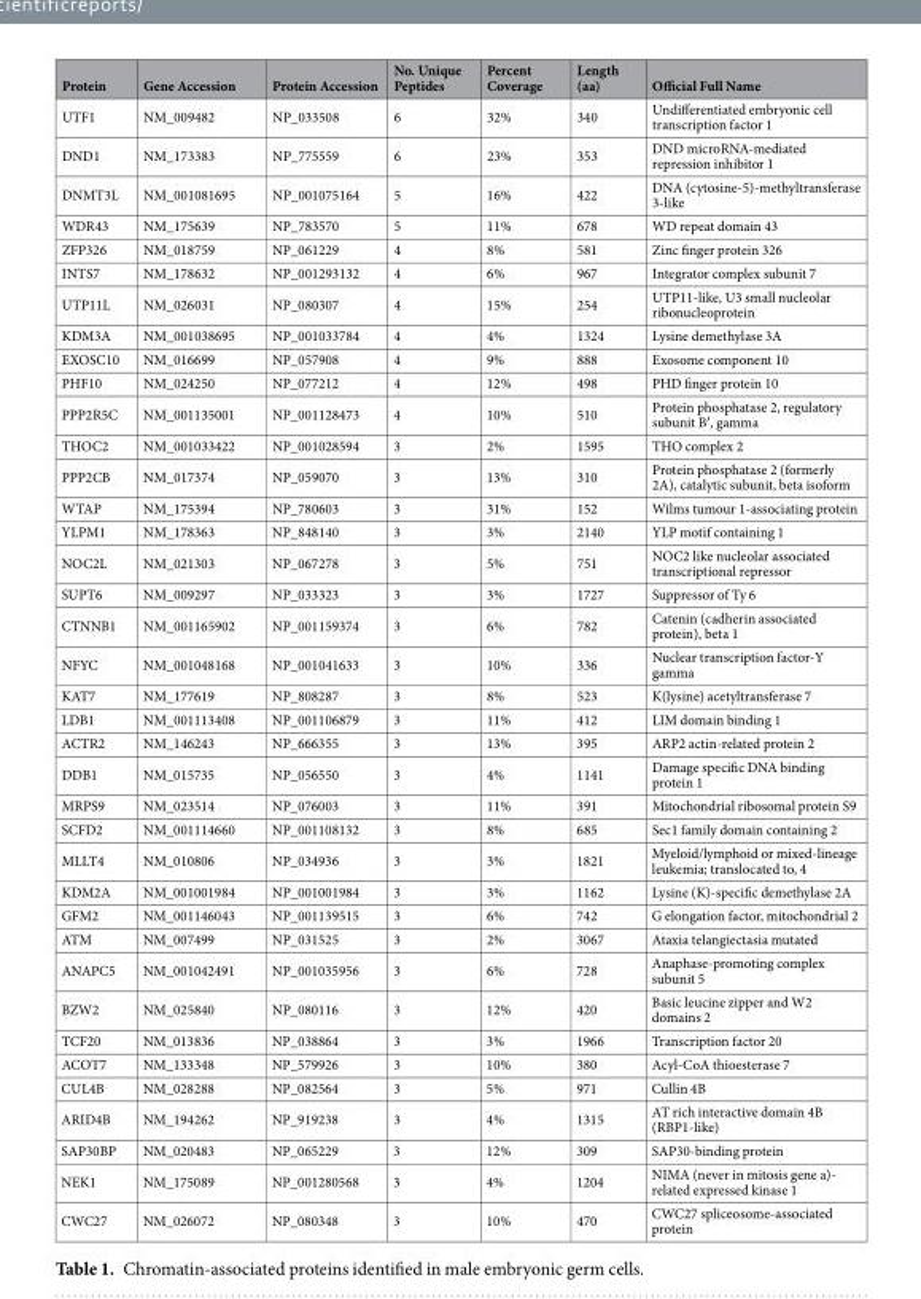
<table><thead><tr><td>Protein</td><td>Gene Accession</td><td>Protein Accession</td><td>No. Unique Peptides</td><td>Percent Coverage</td><td>Length (aa)</td><td>Official Full Name</td></tr></thead><tbody><tr><td>UTF1</td><td>NM_009482</td><td>NP_033508</td><td>6</td><td>32%</td><td>340</td><td>Undifferentiated embryonic cell transcription factor 1</td></tr><tr><td>DND1</td><td>NM_173383</td><td>NP_775559</td><td>6</td><td>23%</td><td>353</td><td>DND microRNA-mediated repression inhibitor 1</td></tr><tr><td>DNMT3L</td><td>NM_001081695</td><td>NP_001075164</td><td>5</td><td>16%</td><td>422</td><td>DNA (cytosine-5)-methyltransferase 3-like</td></tr><tr><td>WDR43</td><td>NM_175639</td><td>NP_783570</td><td>5</td><td>11%</td><td>678</td><td>WD repeat domain 43</td></tr><tr><td>ZFP326</td><td>NM_018759</td><td>NP_061229</td><td>4</td><td>8%</td><td>581</td><td>Zinc finger protein 326</td></tr><tr><td>INTS7</td><td>NM_178632</td><td>NP_001293132</td><td>4</td><td>6%</td><td>967</td><td>Integrator complex subunit 7</td></tr><tr><td>UTP11L</td><td>NM_026031</td><td>NP_080307</td><td>4</td><td>15%</td><td>254</td><td>UTP11-like, U3 small nucleolar ribonucleoprotein</td></tr><tr><td>KDM3A</td><td>NM_001038695</td><td>NP_001033784</td><td>4</td><td>4%</td><td>1324</td><td>Lysine demethylase 3A</td></tr><tr><td>EXOSC10</td><td>NM_016699</td><td>NP_057908</td><td>4</td><td>9%</td><td>888</td><td>Exosome component 10</td></tr><tr><td>PHF10</td><td>NM_024250</td><td>NP_077212</td><td>4</td><td>12%</td><td>498</td><td>PHD finger protein 10</td></tr><tr><td>PPP2R5C</td><td>NM_001135001</td><td>NP_001128473</td><td>4</td><td>10%</td><td>510</td><td>Protein phosphatase 2, regulatory subunit B′, gamma</td></tr><tr><td>THOC2</td><td>NM_001033422</td><td>NP_001028594</td><td>3</td><td>2%</td><td>1595</td><td>THO complex 2</td></tr><tr><td>PPP2CB</td><td>NM_017374</td><td>NP_059070</td><td>3</td><td>13%</td><td>310</td><td>Protein phosphatase 2 (formerly 2A), catalytic subunit, beta isoform</td></tr><tr><td>WTAP</td><td>NM_175394</td><td>NP_780603</td><td>3</td><td>31%</td><td>152</td><td>Wilms tumour 1-associating protein</td></tr><tr><td>YLPM1</td><td>NM_178363</td><td>NP_848140</td><td>3</td><td>3%</td><td>2140</td><td>YLP motif containing 1</td></tr><tr><td>NOC2L</td><td>NM_021303</td><td>NP_067278</td><td>3</td><td>5%</td><td>751</td><td>NOC2 like nucleolar associated transcriptional repressor</td></tr><tr><td>SUPT6</td><td>NM_009297</td><td>NP_033323</td><td>3</td><td>3%</td><td>1727</td><td>Suppressor of Ty 6</td></tr><tr><td>CTNNB1</td><td>NM_001165902</td><td>NP_001159374</td><td>3</td><td>6%</td><td>782</td><td>Catenin (cadherin associated protein), beta 1</td></tr><tr><td>NFYC</td><td>NM_001048168</td><td>NP_001041633</td><td>3</td><td>10%</td><td>336</td><td>Nuclear transcription factor-Y gamma</td></tr><tr><td>KAT7</td><td>NM_177619</td><td>NP_808287</td><td>3</td><td>8%</td><td>523</td><td>K(lysine) acetyltransferase 7</td></tr><tr><td>LDB1</td><td>NM_001113408</td><td>NP_001106879</td><td>3</td><td>11%</td><td>412</td><td>LIM domain binding 1</td></tr><tr><td>ACTR2</td><td>NM_146243</td><td>NP_666355</td><td>3</td><td>13%</td><td>395</td><td>ARP2 actin-related protein 2</td></tr><tr><td>DDB1</td><td>NM_015735</td><td>NP_056550</td><td>3</td><td>4%</td><td>1141</td><td>Damage specific DNA binding protein 1</td></tr><tr><td>MRPS9</td><td>NM_023514</td><td>NP_076003</td><td>3</td><td>11%</td><td>391</td><td>Mitochondrial ribosomal protein S9</td></tr><tr><td>SCFD2</td><td>NM_001114660</td><td>NP_001108132</td><td>3</td><td>8%</td><td>685</td><td>Sec1 family domain containing 2</td></tr><tr><td>MLLT4</td><td>NM_010806</td><td>NP_034936</td><td>3</td><td>3%</td><td>1821</td><td>Myeloid/lymphoid or mixed-lineage leukemia; translocated to, 4</td></tr><tr><td>KDM2A</td><td>NM_001001984</td><td>NP_001001984</td><td>3</td><td>3%</td><td>1162</td><td>Lysine (K)-specific demethylase 2A</td></tr><tr><td>GFM2</td><td>NM_001146043</td><td>NP_001139515</td><td>3</td><td>6%</td><td>742</td><td>G elongation factor, mitochondrial 2</td></tr><tr><td>ATM</td><td>NM_007499</td><td>NP_031525</td><td>3</td><td>2%</td><td>3067</td><td>Ataxia telangiectasia mutated</td></tr><tr><td>ANAPC5</td><td>NM_001042491</td><td>NP_001035956</td><td>3</td><td>6%</td><td>728</td><td>Anaphase-promoting complex subunit 5</td></tr><tr><td>BZW2</td><td>NM_025840</td><td>NP_080116</td><td>3</td><td>12%</td><td>420</td><td>Basic leucine zipper and W2 domains 2</td></tr><tr><td>TCF20</td><td>NM_013836</td><td>NP_038864</td><td>3</td><td>3%</td><td>1966</td><td>Transcription factor 20</td></tr><tr><td>ACOT7</td><td>NM_133348</td><td>NP_579926</td><td>3</td><td>10%</td><td>380</td><td>Acyl-CoA thioesterase 7</td></tr><tr><td>CUL4B</td><td>NM_028288</td><td>NP_082564</td><td>3</td><td>5%</td><td>971</td><td>Cullin 4B</td></tr><tr><td>ARID4B</td><td>NM_194262</td><td>NP_919238</td><td>3</td><td>4%</td><td>1315</td><td>AT rich interactive domain 4B (RBP1-like)</td></tr><tr><td>SAP30BP</td><td>NM_020483</td><td>NP_065229</td><td>3</td><td>12%</td><td>309</td><td>SAP30-binding protein</td></tr><tr><td>NEK1</td><td>NM_175089</td><td>NP_001280568</td><td>3</td><td>4%</td><td>1204</td><td>NIMA (never in mitosis gene a)- related expressed kinase 1</td></tr><tr><td>CWC27</td><td>NM_026072</td><td>NP_080348</td><td>3</td><td>10%</td><td>470</td><td>CWC27 spliceosome-associated protein</td></tr></tbody></table>